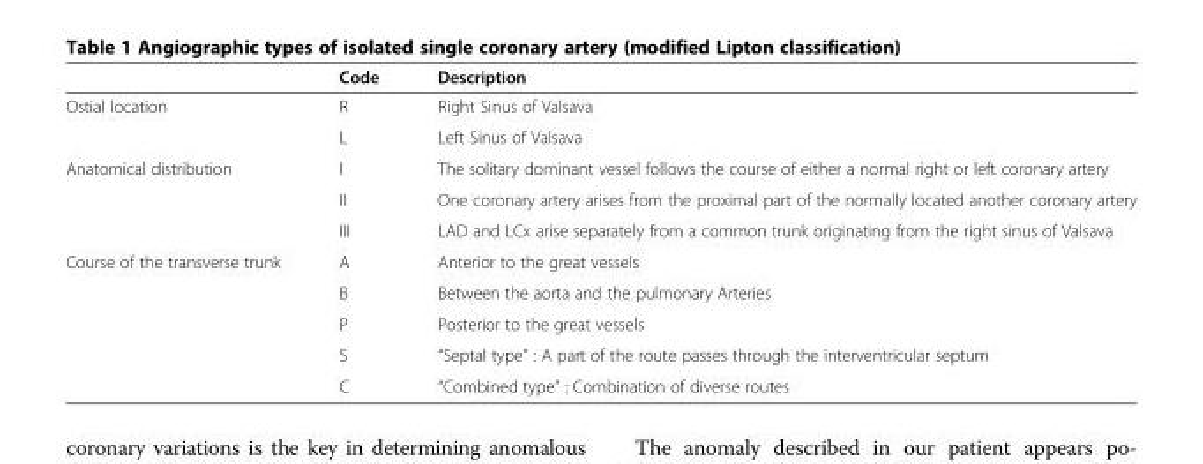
<table><thead><tr><td></td><td>Code</td><td>Description</td></tr></thead><tbody><tr><td rowspan="2">Ostial location</td><td>R</td><td>Right Sinus of Valsava</td></tr><tr><td>L</td><td>Left Sinus of Valsava</td></tr><tr><td rowspan="3">Anatomical distribution</td><td>I</td><td>The solitary dominant vessel follows the course of either a normal right or left coronary artery</td></tr><tr><td>II</td><td>One coronary artery arises from the proximal part of the normally located another coronary artery</td></tr><tr><td>III</td><td>LAD and LCx arise separately from a common trunk originating from the right sinus of Valsava</td></tr><tr><td rowspan="5">Course of the transverse trunk</td><td>A</td><td>Anterior to the great vessels</td></tr><tr><td>B</td><td>Between the aorta and the pulmonary Arteries</td></tr><tr><td>P</td><td>Posterior to the great vessels</td></tr><tr><td>S</td><td>“Septal type” : A part of the route passes through the interventricular septum</td></tr><tr><td>C</td><td>“Combined type” : Combination of diverse routes</td></tr></tbody></table>